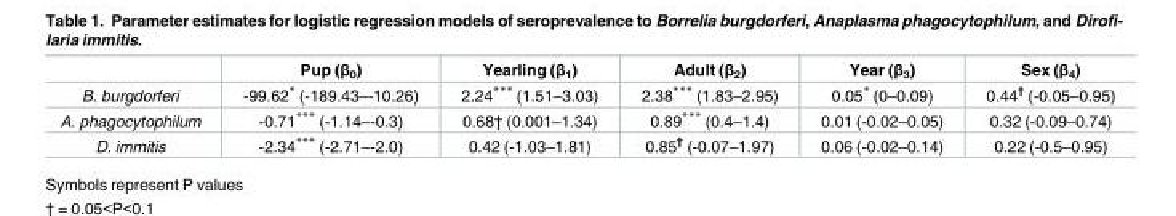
<table><thead><tr><td></td><td>Pup (β<sub>0</sub>)</td><td>Yearling (β<sub>1</sub>)</td><td>Adult (β<sub>2</sub>)</td><td>Year (β<sub>3</sub>)</td><td>Sex (β<sub>4</sub>)</td></tr></thead><tbody><tr><td>B. burgdorferi</td><td>-99.62* (-189.43–-10.26)</td><td>2.24*** (1.51–3.03)</td><td>2.38*** (1.83–2.95)</td><td>0.05* (0–0.09)</td><td>0.44<sup>†</sup> (-0.05–0.95)</td></tr><tr><td>A. phagocytophilum</td><td>-0.71*** (-1.14–-0.3)</td><td>0.68† (0.001–1.34)</td><td>0.89*** (0.4–1.4)</td><td>0.01 (-0.02–0.05)</td><td>0.32 (-0.09–0.74)</td></tr><tr><td>D. immitis</td><td>-2.34*** (-2.71–-2.0)</td><td>0.42 (-1.03–1.81)</td><td>0.85<sup>†</sup> (-0.07–1.97)</td><td>0.06 (-0.02–0.14)</td><td>0.22 (-0.5–0.95)</td></tr></tbody></table>